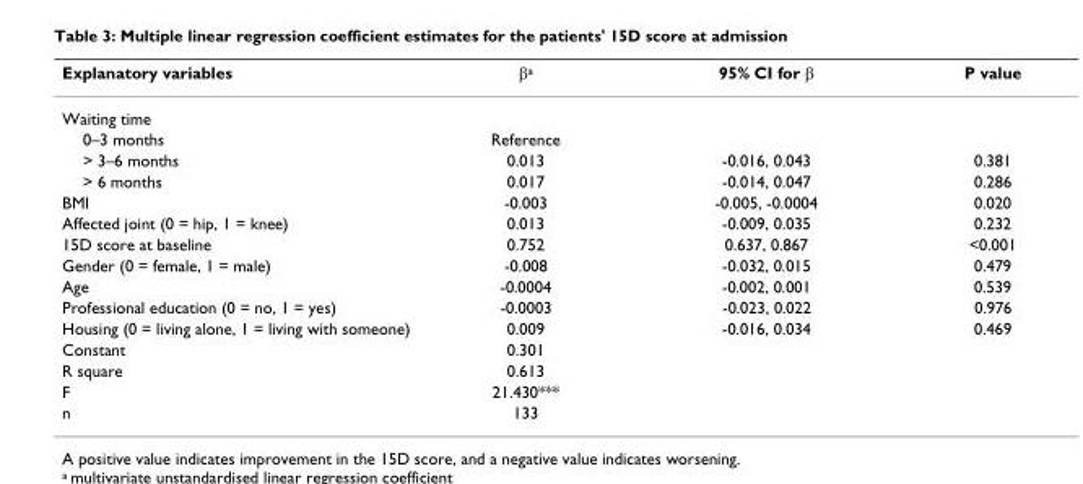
<table><thead><tr><td>Explanatory variables</td><td>β<sup>a</sup></td><td>95% CI for β</td><td>P value</td></tr></thead><tbody><tr><td colspan="4">Waiting time</td></tr><tr><td>0–3 months</td><td>Reference</td><td></td><td></td></tr><tr><td>&gt; 3–6 months</td><td>0.013</td><td>-0.016, 0.043</td><td>0.381</td></tr><tr><td>&gt; 6 months</td><td>0.017</td><td>-0.014, 0.047</td><td>0.286</td></tr><tr><td>BMI</td><td>-0.003</td><td>-0.005, -0.0004</td><td>0.020</td></tr><tr><td>Affected joint (0 = hip, 1 = knee)</td><td>0.013</td><td>-0.009, 0.035</td><td>0.232</td></tr><tr><td>15D score at baseline</td><td>0.752</td><td>0.637, 0.867</td><td>&lt;0.001</td></tr><tr><td>Gender (0 = female, 1 = male)</td><td>-0.008</td><td>-0.032, 0.015</td><td>0.479</td></tr><tr><td>Age</td><td>-0.0004</td><td>-0.002, 0.001</td><td>0.539</td></tr><tr><td>Professional education (0 = no, 1 = yes)</td><td>-0.0003</td><td>-0.023, 0.022</td><td>0.976</td></tr><tr><td>Housing (0 = living alone, 1 = living with someone)</td><td>0.009</td><td>-0.016, 0.034</td><td>0.469</td></tr><tr><td>Constant</td><td>0.301</td><td></td><td></td></tr><tr><td>R square</td><td>0.613</td><td></td><td></td></tr><tr><td>F</td><td>21.430***</td><td></td><td></td></tr><tr><td>n</td><td>133</td><td></td><td></td></tr></tbody></table>